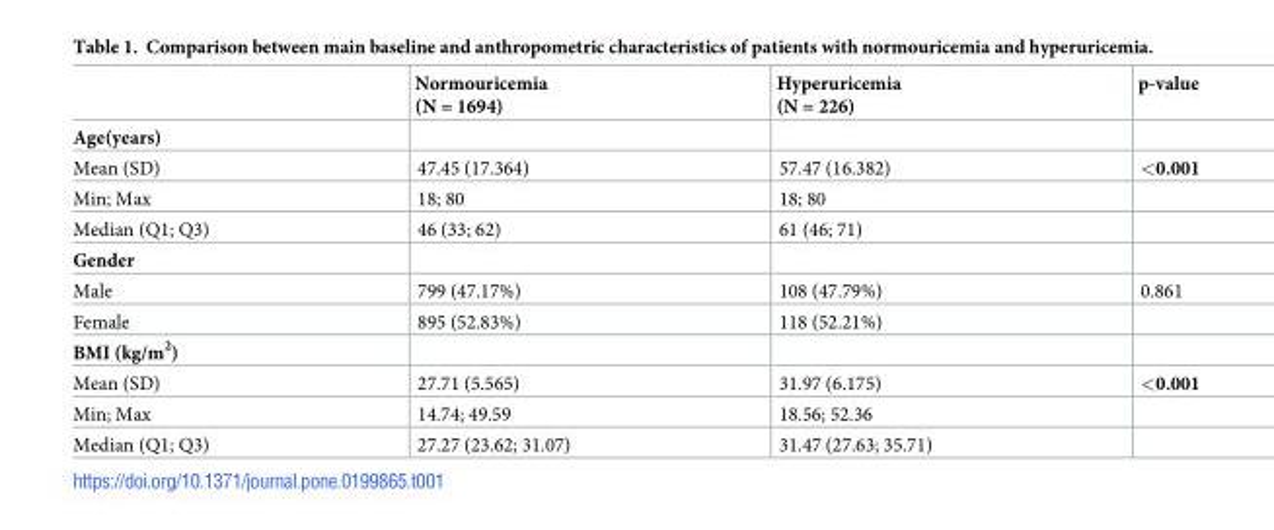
<table><thead><tr><td></td><td>Normouricemia (N = 1694)</td><td>Hyperuricemia (N = 226)</td><td>p-value</td></tr></thead><tbody><tr><td colspan="4">Age(years)</td></tr><tr><td>Mean (SD)</td><td>47.45 (17.364)</td><td>57.47 (16.382)</td><td>&lt;0.001</td></tr><tr><td>Min; Max</td><td>18; 80</td><td>18; 80</td><td></td></tr><tr><td>Median (Q1; Q3)</td><td>46 (33; 62)</td><td>61 (46; 71)</td><td></td></tr><tr><td colspan="4">Gender</td></tr><tr><td>Male</td><td>799 (47.17%)</td><td>108 (47.79%)</td><td>0.861</td></tr><tr><td>Female</td><td>895 (52.83%)</td><td>118 (52.21%)</td><td></td></tr><tr><td colspan="4">BMI (kg/m<sup>2</sup>)</td></tr><tr><td>Mean (SD)</td><td>27.71 (5.565)</td><td>31.97 (6.175)</td><td>&lt;0.001</td></tr><tr><td>Min; Max</td><td>14.74; 49.59</td><td>18.56; 52.36</td><td></td></tr><tr><td>Median (Q1; Q3)</td><td>27.27 (23.62; 31.07)</td><td>31.47 (27.63; 35.71)</td><td></td></tr></tbody></table>